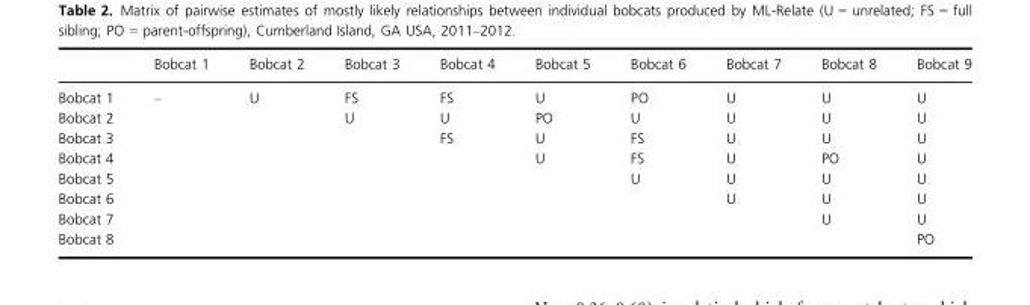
<table><thead><tr><td></td><td>Bobcat 1</td><td>Bobcat 2</td><td>Bobcat 3</td><td>Bobcat 4</td><td>Bobcat 5</td><td>Bobcat 6</td><td>Bobcat 7</td><td>Bobcat 8</td><td>Bobcat 9</td></tr></thead><tbody><tr><td>Bobcat 1</td><td>–</td><td>U</td><td>FS</td><td>FS</td><td>U</td><td>PO</td><td>U</td><td>U</td><td>U</td></tr><tr><td>Bobcat 2</td><td></td><td></td><td>U</td><td>U</td><td>PO</td><td>U</td><td>U</td><td>U</td><td>U</td></tr><tr><td>Bobcat 3</td><td></td><td></td><td></td><td>FS</td><td>U</td><td>FS</td><td>U</td><td>U</td><td>U</td></tr><tr><td>Bobcat 4</td><td></td><td></td><td></td><td></td><td>U</td><td>FS</td><td>U</td><td>PO</td><td>U</td></tr><tr><td>Bobcat 5</td><td></td><td></td><td></td><td></td><td></td><td>U</td><td>U</td><td>U</td><td>U</td></tr><tr><td>Bobcat 6</td><td></td><td></td><td></td><td></td><td></td><td></td><td>U</td><td>U</td><td>U</td></tr><tr><td>Bobcat 7</td><td></td><td></td><td></td><td></td><td></td><td></td><td></td><td>U</td><td>U</td></tr><tr><td>Bobcat 8</td><td></td><td></td><td></td><td></td><td></td><td></td><td></td><td></td><td>PO</td></tr></tbody></table>